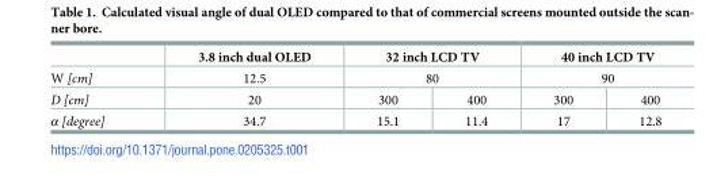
<table><thead><tr><td rowspan="3">W [cm] D [cm]</td><td rowspan="3">3.8 inch dual OLED 12.5 20</td><td rowspan="2" colspan="2">32 inch LCD TV 80</td><td rowspan="2" colspan="2">40 inch LCD TV 90</td></tr><tr></tr><tr><td>300</td><td>400</td><td>300</td><td>400</td></tr></thead><tbody><tr><td>α [degree]</td><td>34.7</td><td>15.1</td><td>11.4</td><td>17</td><td>12.8</td></tr></tbody></table>